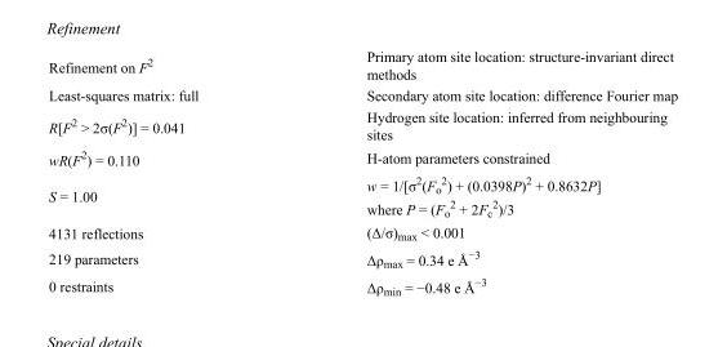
<table><tbody><tr><td>Refinement on F<sup>2</sup></td><td>Primary atom site location: structure-invariant direct methods</td></tr><tr><td>Least-squares matrix: full</td><td>Secondary atom site location: difference Fourier map</td></tr><tr><td>R[F<sup>2</sup> &gt; 2σ(F<sup>2</sup>)] = 0.041</td><td>Hydrogen site location: inferred from neighbouring sites</td></tr><tr><td>wR(F<sup>2</sup>) = 0.110</td><td>H-atom parameters constrained</td></tr><tr><td>S = 1.00</td><td>w = 1/[σ<sup>2</sup>(F<sub>o</sub> <sup>2</sup>) + (0.0398P)<sup>2</sup> + 0.8632P] where P = (F<sub>o</sub> <sup>2</sup> + 2F<sub>c</sub> <sup>2</sup>)/3</td></tr><tr><td>4131 reflections</td><td>(Δ/σ)<sub>max</sub> &lt; 0.001</td></tr><tr><td>219 parameters</td><td>Δρ<sub>max</sub> = 0.34 e Å<sup>−3</sup></td></tr><tr><td>0 restraints</td><td>Δρ<sub>min</sub> = −0.48 e Å<sup>−3</sup></td></tr></tbody></table>